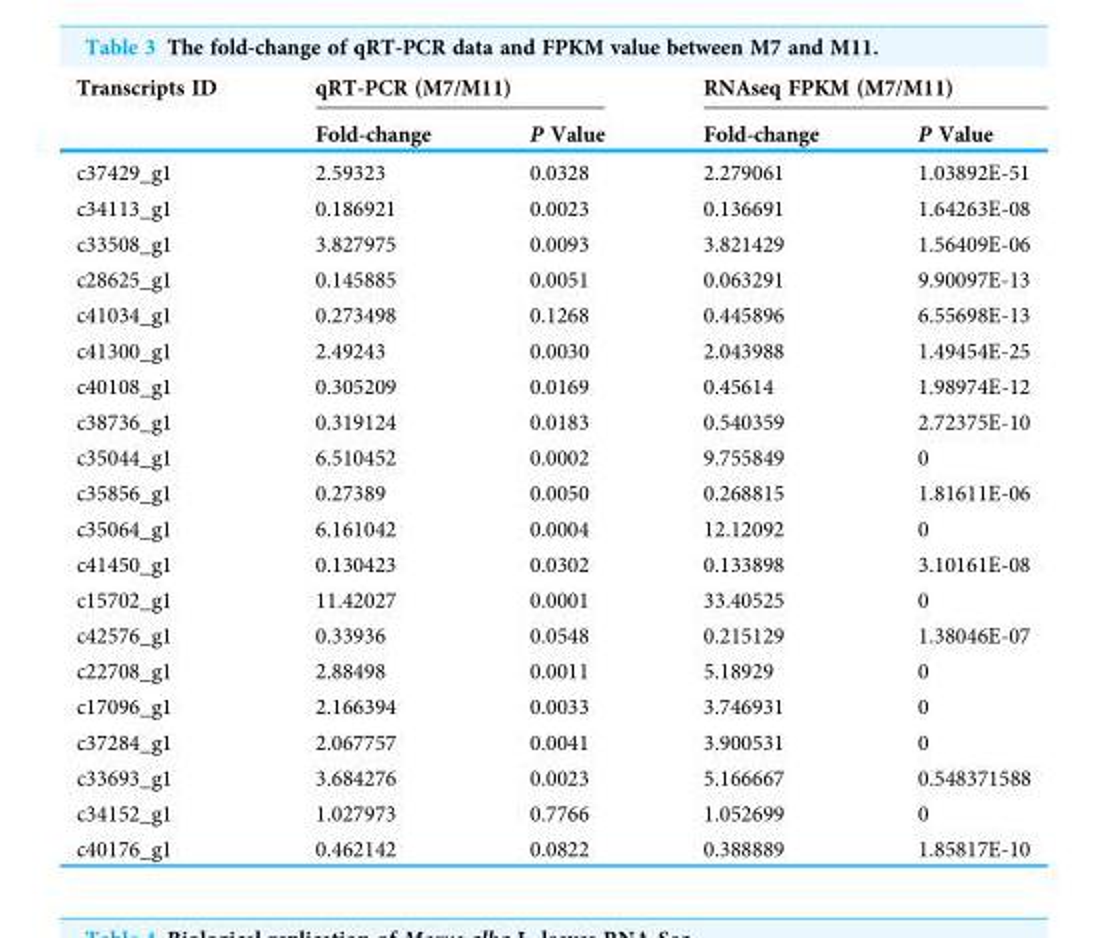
<table><thead><tr><td rowspan="2">Transcripts ID</td><td colspan="2">qRT-PCR (M7/M11)</td><td colspan="2">RNAseq FPKM (M7/M11)</td></tr><tr><td>Fold-change</td><td>P Value</td><td>Fold-change</td><td>P Value</td></tr></thead><tbody><tr><td>c37429_g1</td><td>2.59323</td><td>0.0328</td><td>2.279061</td><td>1.03892E-51</td></tr><tr><td>c34113_g1</td><td>0.186921</td><td>0.0023</td><td>0.136691</td><td>1.64263E-08</td></tr><tr><td>c33508_g1</td><td>3.827975</td><td>0.0093</td><td>3.821429</td><td>1.56409E-06</td></tr><tr><td>c28625_g1</td><td>0.145885</td><td>0.0051</td><td>0.063291</td><td>9.90097E-13</td></tr><tr><td>c41034_g1</td><td>0.273498</td><td>0.1268</td><td>0.445896</td><td>6.55698E-13</td></tr><tr><td>c41300_g1</td><td>2.49243</td><td>0.0030</td><td>2.043988</td><td>1.49454E-25</td></tr><tr><td>c40108_g1</td><td>0.305209</td><td>0.0169</td><td>0.45614</td><td>1.98974E-12</td></tr><tr><td>c38736_g1</td><td>0.319124</td><td>0.0183</td><td>0.540359</td><td>2.72375E-10</td></tr><tr><td>c35044_g1</td><td>6.510452</td><td>0.0002</td><td>9.755849</td><td>0</td></tr><tr><td>c35856_g1</td><td>0.27389</td><td>0.0050</td><td>0.268815</td><td>1.81611E-06</td></tr><tr><td>c35064_g1</td><td>6.161042</td><td>0.0004</td><td>12.12092</td><td>0</td></tr><tr><td>c41450_g1</td><td>0.130423</td><td>0.0302</td><td>0.133898</td><td>3.10161E-08</td></tr><tr><td>c15702_g1</td><td>11.42027</td><td>0.0001</td><td>33.40525</td><td>0</td></tr><tr><td>c42576_g1</td><td>0.33936</td><td>0.0548</td><td>0.215129</td><td>1.38046E-07</td></tr><tr><td>c22708_g1</td><td>2.88498</td><td>0.0011</td><td>5.18929</td><td>0</td></tr><tr><td>c17096_g1</td><td>2.166394</td><td>0.0033</td><td>3.746931</td><td>0</td></tr><tr><td>c37284_g1</td><td>2.067757</td><td>0.0041</td><td>3.900531</td><td>0</td></tr><tr><td>c33693_g1</td><td>3.684276</td><td>0.0023</td><td>5.166667</td><td>0.548371588</td></tr><tr><td>c34152_g1</td><td>1.027973</td><td>0.7766</td><td>1.052699</td><td>0</td></tr><tr><td>c40176_g1</td><td>0.462142</td><td>0.0822</td><td>0.388889</td><td>1.85817E-10</td></tr></tbody></table>